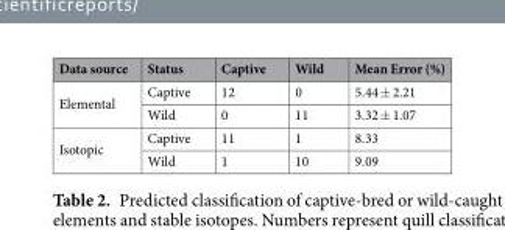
<table><thead><tr><td>Data source</td><td>Status</td><td>Captive</td><td>Wild</td><td>Mean Error (%)</td></tr></thead><tbody><tr><td rowspan="2">Elemental</td><td>Captive</td><td>12</td><td>0</td><td>5.44 ± 2.21</td></tr><tr><td>Wild</td><td>0</td><td>11</td><td>3.32 ± 1.07</td></tr><tr><td rowspan="2">Isotopic</td><td>Captive</td><td>11</td><td>1</td><td>8.33</td></tr><tr><td>Wild</td><td>1</td><td>10</td><td>9.09</td></tr></tbody></table>